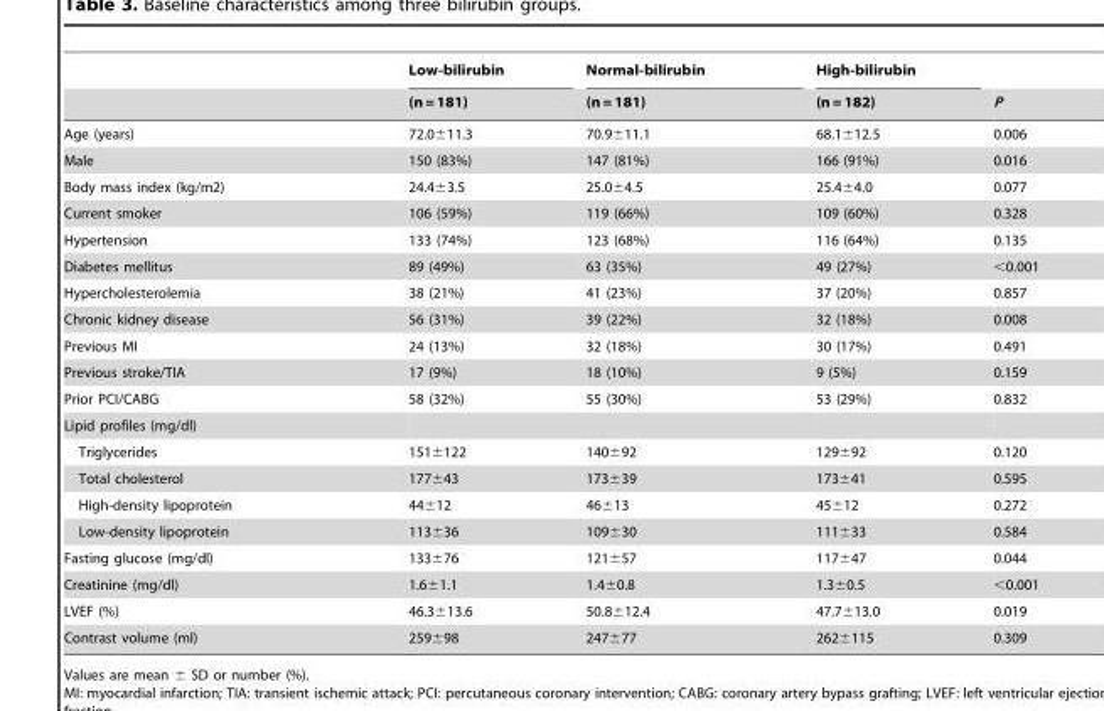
<table><thead><tr><td rowspan="2"></td><td rowspan="2">Low-bilirubin (n = 181)</td><td rowspan="2">Normal-bilirubin (n = 181)</td><td rowspan="2">High-bilirubin (n = 182)</td><td rowspan="2">P</td></tr><tr></tr></thead><tbody><tr><td>Age (years)</td><td>72.0±11.3</td><td>70.9±11.1</td><td>68.1±12.5</td><td>0.006</td></tr><tr><td>Male</td><td>150 (83%)</td><td>147 (81%)</td><td>166 (91%)</td><td>0.016</td></tr><tr><td>Body mass index (kg/m2)</td><td>24.4±3.5</td><td>25.0±4.5</td><td>25.4±4.0</td><td>0.077</td></tr><tr><td>Current smoker</td><td>106 (59%)</td><td>119 (66%)</td><td>109 (60%)</td><td>0.328</td></tr><tr><td>Hypertension</td><td>133 (74%)</td><td>123 (68%)</td><td>116 (64%)</td><td>0.135</td></tr><tr><td>Diabetes mellitus</td><td>89 (49%)</td><td>63 (35%)</td><td>49 (27%)</td><td>&lt;0.001</td></tr><tr><td>Hypercholesterolemia</td><td>38 (21%)</td><td>41 (23%)</td><td>37 (20%)</td><td>0.857</td></tr><tr><td>Chronic kidney disease</td><td>56 (31%)</td><td>39 (22%)</td><td>32 (18%)</td><td>0.008</td></tr><tr><td>Previous MI</td><td>24 (13%)</td><td>32 (18%)</td><td>30 (17%)</td><td>0.491</td></tr><tr><td>Previous stroke/TIA</td><td>17 (9%)</td><td>18 (10%)</td><td>9 (5%)</td><td>0.159</td></tr><tr><td>Prior PCI/CABG</td><td>58 (32%)</td><td>55 (30%)</td><td>53 (29%)</td><td>0.832</td></tr><tr><td colspan="5">Lipid profiles (mg/dl)</td></tr><tr><td>Triglycerides</td><td>151±122</td><td>140±92</td><td>129±92</td><td>0.120</td></tr><tr><td>Total cholesterol</td><td>177±43</td><td>173±39</td><td>173±41</td><td>0.595</td></tr><tr><td>High-density lipoprotein</td><td>44±12</td><td>46±13</td><td>45±12</td><td>0.272</td></tr><tr><td>Low-density lipoprotein</td><td>113±36</td><td>109±30</td><td>111±33</td><td>0.584</td></tr><tr><td>Fasting glucose (mg/dl)</td><td>133±76</td><td>121±57</td><td>117±47</td><td>0.044</td></tr><tr><td>Creatinine (mg/dl)</td><td>1.6±1.1</td><td>1.4±0.8</td><td>1.3±0.5</td><td>&lt;0.001</td></tr><tr><td>LVEF (%)</td><td>46.3±13.6</td><td>50.8±12.4</td><td>47.7±13.0</td><td>0.019</td></tr><tr><td>Contrast volume (ml)</td><td>259±98</td><td>247±77</td><td>262±115</td><td>0.309</td></tr></tbody></table>